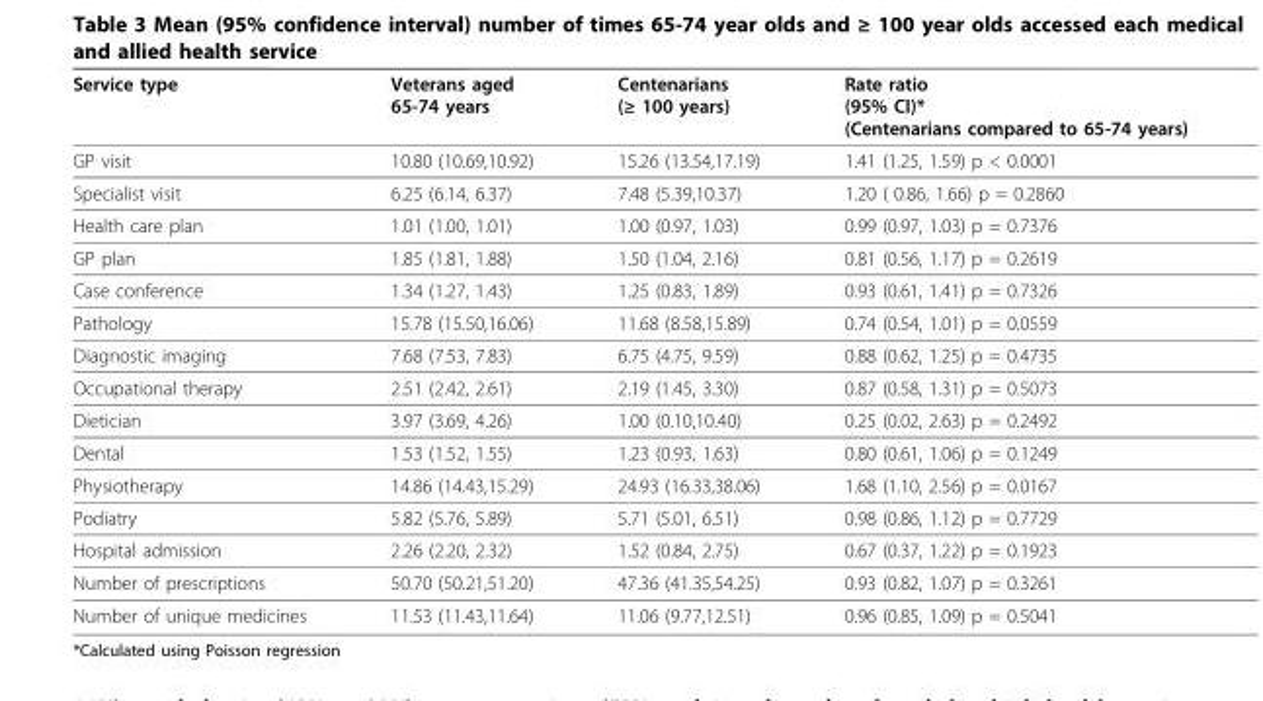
<table><thead><tr><td>Service type</td><td>Veterans aged 65-74 years</td><td>Centenarians (≥ 100 years)</td><td>Rate ratio (95% CI)* (Centenarians compared to 65-74 years)</td></tr></thead><tbody><tr><td>GP visit</td><td>10.80 (10.69,10.92)</td><td>15.26 (13.54,17.19)</td><td>1.41 (1.25, 1.59) p &lt; 0.0001</td></tr><tr><td>Specialist visit</td><td>6.25 (6.14, 6.37)</td><td>7.48 (5.39,10.37)</td><td>1.20 ( 0.86, 1.66) p = 0.2860</td></tr><tr><td>Health care plan</td><td>1.01 (1.00, 1.01)</td><td>1.00 (0.97, 1.03)</td><td>0.99 (0.97, 1.03) p = 0.7376</td></tr><tr><td>GP plan</td><td>1.85 (1.81, 1.88)</td><td>1.50 (1.04, 2.16)</td><td>0.81 (0.56, 1.17) p = 0.2619</td></tr><tr><td>Case conference</td><td>1.34 (1.27, 1.43)</td><td>1.25 (0.83, 1.89)</td><td>0.93 (0.61, 1.41) p = 0.7326</td></tr><tr><td>Pathology</td><td>15.78 (15.50,16.06)</td><td>11.68 (8.58,15.89)</td><td>0.74 (0.54, 1.01) p = 0.0559</td></tr><tr><td>Diagnostic imaging</td><td>7.68 (7.53, 7.83)</td><td>6.75 (4.75, 9.59)</td><td>0.88 (0.62, 1.25) p = 0.4735</td></tr><tr><td>Occupational therapy</td><td>2.51 (2.42, 2.61)</td><td>2.19 (1.45, 3.30)</td><td>0.87 (0.58, 1.31) p = 0.5073</td></tr><tr><td>Dietician</td><td>3.97 (3.69, 4.26)</td><td>1.00 (0.10,10.40)</td><td>0.25 (0.02, 2.63) p = 0.2492</td></tr><tr><td>Dental</td><td>1.53 (1.52, 1.55)</td><td>1.23 (0.93, 1.63)</td><td>0.80 (0.61, 1.06) p = 0.1249</td></tr><tr><td>Physiotherapy</td><td>14.86 (14.43,15.29)</td><td>24.93 (16.33,38.06)</td><td>1.68 (1.10, 2.56) p = 0.0167</td></tr><tr><td>Podiatry</td><td>5.82 (5.76, 5.89)</td><td>5.71 (5.01, 6.51)</td><td>0.98 (0.86, 1.12) p = 0.7729</td></tr><tr><td>Hospital admission</td><td>2.26 (2.20, 2.32)</td><td>1.52 (0.84, 2.75)</td><td>0.67 (0.37, 1.22) p = 0.1923</td></tr><tr><td>Number of prescriptions</td><td>50.70 (50.21,51.20)</td><td>47.36 (41.35,54.25)</td><td>0.93 (0.82, 1.07) p = 0.3261</td></tr><tr><td>Number of unique medicines</td><td>11.53 (11.43,11.64)</td><td>11.06 (9.77,12.51)</td><td>0.96 (0.85, 1.09) p = 0.5041</td></tr></tbody></table>